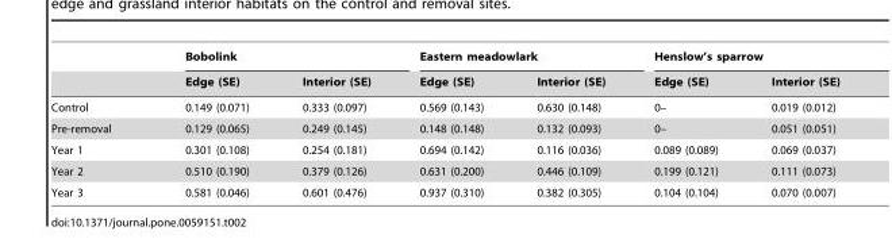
<table><thead><tr><td rowspan="2"></td><td colspan="2">Bobolink</td><td colspan="2">Eastern meadowlark</td><td colspan="2">Henslow’s sparrow</td></tr><tr><td>Edge (SE)</td><td>Interior (SE)</td><td>Edge (SE)</td><td>Interior (SE)</td><td>Edge (SE)</td><td>Interior (SE)</td></tr></thead><tbody><tr><td>Control</td><td>0.149 (0.071)</td><td>0.333 (0.097)</td><td>0.569 (0.143)</td><td>0.630 (0.148)</td><td>0–</td><td>0.019 (0.012)</td></tr><tr><td>Pre-removal</td><td>0.129 (0.065)</td><td>0.249 (0.145)</td><td>0.148 (0.148)</td><td>0.132 (0.093)</td><td>0–</td><td>0.051 (0.051)</td></tr><tr><td>Year 1</td><td>0.301 (0.108)</td><td>0.254 (0.181)</td><td>0.694 (0.142)</td><td>0.116 (0.036)</td><td>0.089 (0.089)</td><td>0.069 (0.037)</td></tr><tr><td>Year 2</td><td>0.510 (0.190)</td><td>0.379 (0.126)</td><td>0.631 (0.200)</td><td>0.446 (0.109)</td><td>0.199 (0.121)</td><td>0.111 (0.073)</td></tr><tr><td>Year 3</td><td>0.581 (0.046)</td><td>0.601 (0.476)</td><td>0.937 (0.310)</td><td>0.382 (0.305)</td><td>0.104 (0.104)</td><td>0.070 (0.007)</td></tr></tbody></table>